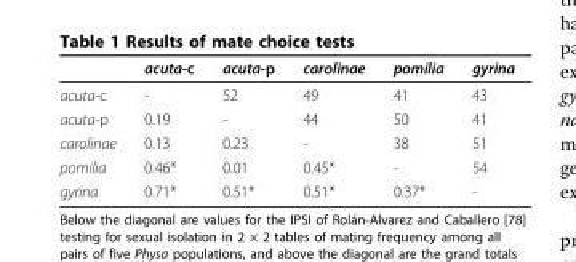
<table><thead><tr><td></td><td>acuta-c</td><td>acuta-p</td><td>carolinae</td><td>pomilia</td><td>gyrina</td></tr></thead><tbody><tr><td>acuta-c</td><td>-</td><td>52</td><td>49</td><td>41</td><td>43</td></tr><tr><td>acuta-p</td><td>0.19</td><td>-</td><td>44</td><td>50</td><td>41</td></tr><tr><td>carolinae</td><td>0.13</td><td>0.23</td><td>-</td><td>38</td><td>51</td></tr><tr><td>pomilia</td><td>0.46*</td><td>0.01</td><td>0.45*</td><td>-</td><td>54</td></tr><tr><td>gyrina</td><td>0.71*</td><td>0.51*</td><td>0.51*</td><td>0.37*</td><td>-</td></tr></tbody></table>